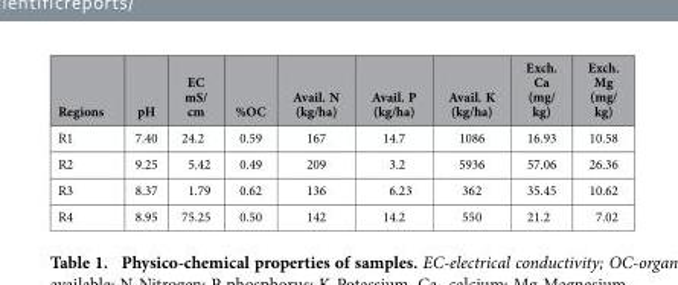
<table><thead><tr><td>Regions</td><td>pH</td><td>EC mS/ cm</td><td>%OC</td><td>Avail. N (kg/ha)</td><td>Avail. P (kg/ha)</td><td>Avail. K (kg/ha)</td><td>Exch. Ca (mg/ kg)</td><td>Exch. Mg (mg/ kg)</td></tr></thead><tbody><tr><td>R1</td><td>7.40</td><td>24.2</td><td>0.59</td><td>167</td><td>14.7</td><td>1086</td><td>16.93</td><td>10.58</td></tr><tr><td>R2</td><td>9.25</td><td>5.42</td><td>0.49</td><td>209</td><td>3.2</td><td>5936</td><td>57.06</td><td>26.36</td></tr><tr><td>R3</td><td>8.37</td><td>1.79</td><td>0.62</td><td>136</td><td>6.23</td><td>362</td><td>35.45</td><td>10.62</td></tr><tr><td>R4</td><td>8.95</td><td>75.25</td><td>0.50</td><td>142</td><td>14.2</td><td>550</td><td>21.2</td><td>7.02</td></tr></tbody></table>